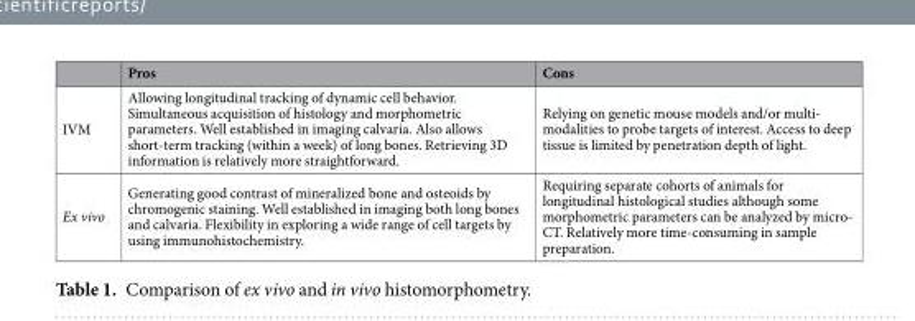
<table><thead><tr><td></td><td>Pros</td><td>Cons</td></tr></thead><tbody><tr><td>IVM</td><td>Allowing longitudinal tracking of dynamic cell behavior. Simultaneous acquisition of histology and morphometric parameters. Well established in imaging calvaria. Also allows short-term tracking (within a week) of long bones. Retrieving 3D information is relatively more straightforward.</td><td>Relying on genetic mouse models and/or multi- modalities to probe targets of interest. Access to deep tissue is limited by penetration depth of light.</td></tr><tr><td>Ex vivo</td><td>Generating good contrast of mineralized bone and osteoids by chromogenic staining. Well established in imaging both long bones and calvaria. Flexibility in exploring a wide range of cell targets by using immunohistochemistry.</td><td>Requiring separate cohorts of animals for longitudinal histological studies although some morphometric parameters can be analyzed by micro- CT. Relatively more time-consuming in sample preparation.</td></tr></tbody></table>